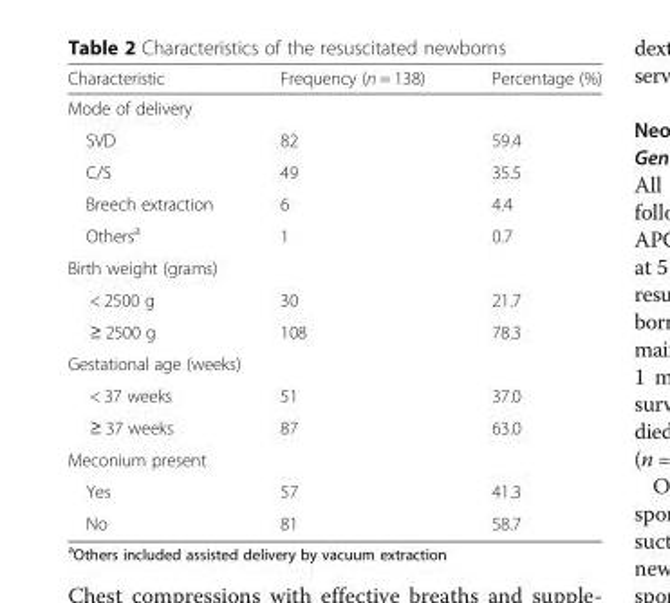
<table><thead><tr><td>Characteristic</td><td>Frequency (n = 138)</td><td>Percentage (%)</td></tr></thead><tbody><tr><td colspan="3">Mode of delivery</td></tr><tr><td>SVD</td><td>82</td><td>59.4</td></tr><tr><td>C/S</td><td>49</td><td>35.5</td></tr><tr><td>Breech extraction</td><td>6</td><td>4.4</td></tr><tr><td>Others<sup>a</sup></td><td>1</td><td>0.7</td></tr><tr><td colspan="3">Birth weight (grams)</td></tr><tr><td>&lt; 2500 g</td><td>30</td><td>21.7</td></tr><tr><td>≥ 2500 g</td><td>108</td><td>78.3</td></tr><tr><td colspan="3">Gestational age (weeks)</td></tr><tr><td>&lt; 37 weeks</td><td>51</td><td>37.0</td></tr><tr><td>≥ 37 weeks</td><td>87</td><td>63.0</td></tr><tr><td colspan="3">Meconium present</td></tr><tr><td>Yes</td><td>57</td><td>41.3</td></tr><tr><td>No</td><td>81</td><td>58.7</td></tr></tbody></table>